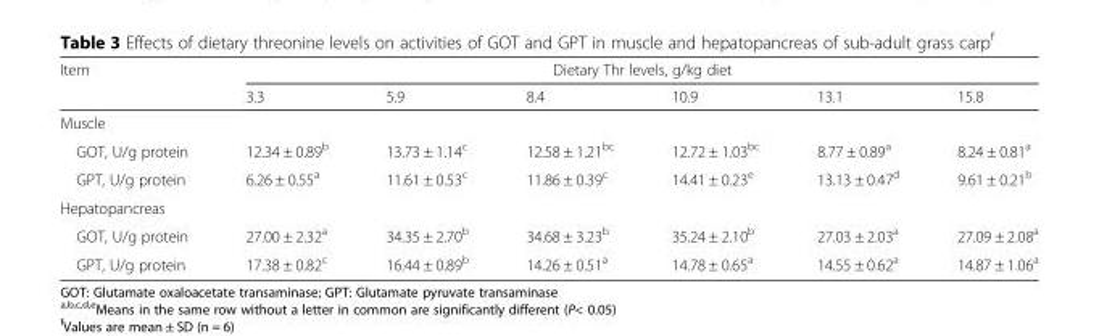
<table><thead><tr><td rowspan="2">Item</td><td colspan="6">Dietary Thr levels, g/kg diet</td></tr><tr><td>3.3</td><td>5.9</td><td>8.4</td><td>10.9</td><td>13.1</td><td>15.8</td></tr></thead><tbody><tr><td colspan="7">Muscle</td></tr><tr><td>GOT, U/g protein</td><td>12.34 ± 0.89<sup>b</sup></td><td>13.73 ± 1.14<sup>c</sup></td><td>12.58 ± 1.21<sup>bc</sup></td><td>12.72 ± 1.03<sup>bc</sup></td><td>8.77 ± 0.89<sup>a</sup></td><td>8.24 ± 0.81<sup>a</sup></td></tr><tr><td>GPT, U/g protein</td><td>6.26 ± 0.55<sup>a</sup></td><td>11.61 ± 0.53<sup>c</sup></td><td>11.86 ± 0.39<sup>c</sup></td><td>14.41 ± 0.23<sup>e</sup></td><td>13.13 ± 0.47<sup>d</sup></td><td>9.61 ± 0.21<sup>b</sup></td></tr><tr><td colspan="7">Hepatopancreas</td></tr><tr><td>GOT, U/g protein</td><td>27.00 ± 2.32<sup>a</sup></td><td>34.35 ± 2.70<sup>b</sup></td><td>34.68 ± 3.23<sup>b</sup></td><td>35.24 ± 2.10<sup>b</sup></td><td>27.03 ± 2.03<sup>a</sup></td><td>27.09 ± 2.08<sup>a</sup></td></tr><tr><td>GPT, U/g protein</td><td>17.38 ± 0.82<sup>c</sup></td><td>16.44 ± 0.89<sup>b</sup></td><td>14.26 ± 0.51<sup>a</sup></td><td>14.78 ± 0.65<sup>a</sup></td><td>14.55 ± 0.62<sup>a</sup></td><td>14.87 ± 1.06<sup>a</sup></td></tr></tbody></table>